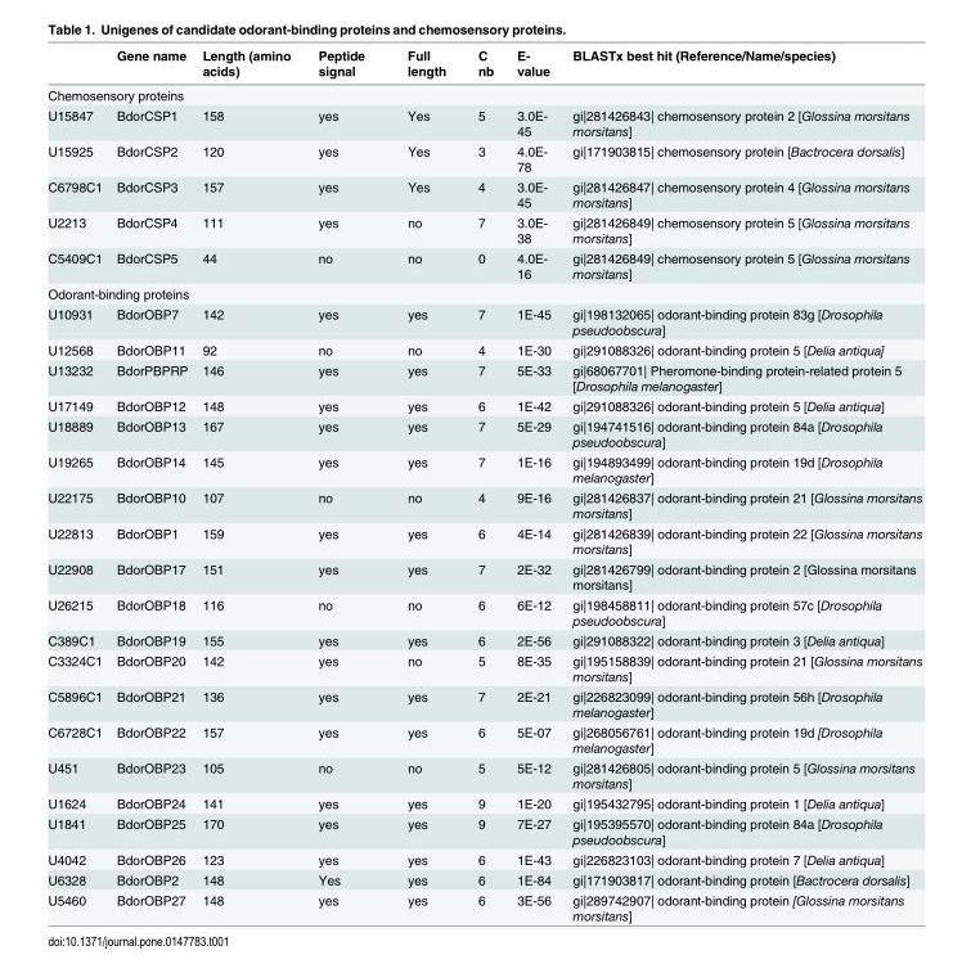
<table><thead><tr><td></td><td>Gene name</td><td>Length (amino acids)</td><td>Peptide signal</td><td>Full length</td><td>C nb</td><td>E- value</td><td>BLASTx best hit (Reference/Name/species)</td></tr></thead><tbody><tr><td colspan="8">Chemosensory proteins</td></tr><tr><td>U15847</td><td>BdorCSP1</td><td>158</td><td>yes</td><td>Yes</td><td>5</td><td>3.0E- 45</td><td>gi|281426843| chemosensory protein 2 [Glossina morsitans morsitans]</td></tr><tr><td>U15925</td><td>BdorCSP2</td><td>120</td><td>yes</td><td>Yes</td><td>3</td><td>4.0E- 78</td><td>gi|171903815| chemosensory protein [Bactrocera dorsalis]</td></tr><tr><td>C6798C1</td><td>BdorCSP3</td><td>157</td><td>yes</td><td>Yes</td><td>4</td><td>3.0E- 45</td><td>gi|281426847| chemosensory protein 4 [Glossina morsitans morsitans]</td></tr><tr><td>U2213</td><td>BdorCSP4</td><td>111</td><td>yes</td><td>no</td><td>7</td><td>3.0E- 38</td><td>gi|281426849| chemosensory protein 5 [Glossina morsitans morsitans]</td></tr><tr><td>C5409C1</td><td>BdorCSP5</td><td>44</td><td>no</td><td>no</td><td>0</td><td>4.0E- 16</td><td>gi|281426849| chemosensory protein 5 [Glossina morsitans morsitans]</td></tr><tr><td colspan="8">Odorant-binding proteins</td></tr><tr><td>U10931</td><td>BdorOBP7</td><td>142</td><td>yes</td><td>yes</td><td>7</td><td>1E-45</td><td>gi|198132065| odorant-binding protein 83g [Drosophila pseudoobscura]</td></tr><tr><td>U12568</td><td>BdorOBP11</td><td>92</td><td>no</td><td>no</td><td>4</td><td>1E-30</td><td>gi|291088326| odorant-binding protein 5 [Delia antiqua]</td></tr><tr><td>U13232</td><td>BdorPBPRP</td><td>146</td><td>yes</td><td>yes</td><td>7</td><td>5E-33</td><td>gi|68067701| Pheromone-binding protein-related protein 5 [Drosophila melanogaster]</td></tr><tr><td>U17149</td><td>BdorOBP12</td><td>148</td><td>yes</td><td>yes</td><td>6</td><td>1E-42</td><td>gi|291088326| odorant-binding protein 5 [Delia antiqua]</td></tr><tr><td>U18889</td><td>BdorOBP13</td><td>167</td><td>yes</td><td>yes</td><td>7</td><td>5E-29</td><td>gi|194741516| odorant-binding protein 84a [Drosophila pseudoobscura]</td></tr><tr><td>U19265</td><td>BdorOBP14</td><td>145</td><td>yes</td><td>yes</td><td>7</td><td>1E-16</td><td>gi|194893499| odorant-binding protein 19d [Drosophila melanogaster]</td></tr><tr><td>U22175</td><td>BdorOBP10</td><td>107</td><td>no</td><td>no</td><td>4</td><td>9E-16</td><td>gi|281426837| odorant-binding protein 21 [Glossina morsitans morsitans]</td></tr><tr><td>U22813</td><td>BdorOBP1</td><td>159</td><td>yes</td><td>yes</td><td>6</td><td>4E-14</td><td>gi|281426839| odorant-binding protein 22 [Glossina morsitans morsitans]</td></tr><tr><td>U22908</td><td>BdorOBP17</td><td>151</td><td>yes</td><td>yes</td><td>7</td><td>2E-32</td><td>gi|281426799| odorant-binding protein 2 [Glossina morsitans morsitans]</td></tr><tr><td>U26215</td><td>BdorOBP18</td><td>116</td><td>no</td><td>no</td><td>6</td><td>6E-12</td><td>gi|198458811| odorant-binding protein 57c [Drosophila pseudoobscura]</td></tr><tr><td>C389C1</td><td>BdorOBP19</td><td>155</td><td>yes</td><td>yes</td><td>6</td><td>2E-56</td><td>gi|291088322| odorant-binding protein 3 [Delia antiqua]</td></tr><tr><td>C3324C1</td><td>BdorOBP20</td><td>142</td><td>yes</td><td>no</td><td>5</td><td>8E-35</td><td>gi|195158839| odorant-binding protein 21 [Glossina morsitans morsitans]</td></tr><tr><td>C5896C1</td><td>BdorOBP21</td><td>136</td><td>yes</td><td>yes</td><td>7</td><td>2E-21</td><td>gi|226823099| odorant-binding protein 56h [Drosophila melanogaster]</td></tr><tr><td>C6728C1</td><td>BdorOBP22</td><td>157</td><td>yes</td><td>yes</td><td>6</td><td>5E-07</td><td>gi|268056761| odorant-binding protein 19d [Drosophila melanogaster]</td></tr><tr><td>U451</td><td>BdorOBP23</td><td>105</td><td>no</td><td>no</td><td>5</td><td>5E-12</td><td>gi|281426805| odorant-binding protein 5 [Glossina morsitans morsitans]</td></tr><tr><td>U1624</td><td>BdorOBP24</td><td>141</td><td>yes</td><td>yes</td><td>9</td><td>1E-20</td><td>gi|195432795| odorant-binding protein 1 [Delia antiqua]</td></tr><tr><td>U1841</td><td>BdorOBP25</td><td>170</td><td>yes</td><td>yes</td><td>9</td><td>7E-27</td><td>gi|195395570| odorant-binding protein 84a [Drosophila pseudoobscura]</td></tr><tr><td>U4042</td><td>BdorOBP26</td><td>123</td><td>yes</td><td>yes</td><td>6</td><td>1E-43</td><td>gi|226823103| odorant-binding protein 7 [Delia antiqua]</td></tr><tr><td>U6328</td><td>BdorOBP2</td><td>148</td><td>Yes</td><td>yes</td><td>6</td><td>1E-84</td><td>gi|171903817| odorant-binding protein [Bactrocera dorsalis]</td></tr><tr><td>U5460</td><td>BdorOBP27</td><td>148</td><td>yes</td><td>yes</td><td>6</td><td>3E-56</td><td>gi|289742907| odorant-binding protein [Glossina morsitans morsitans]</td></tr></tbody></table>